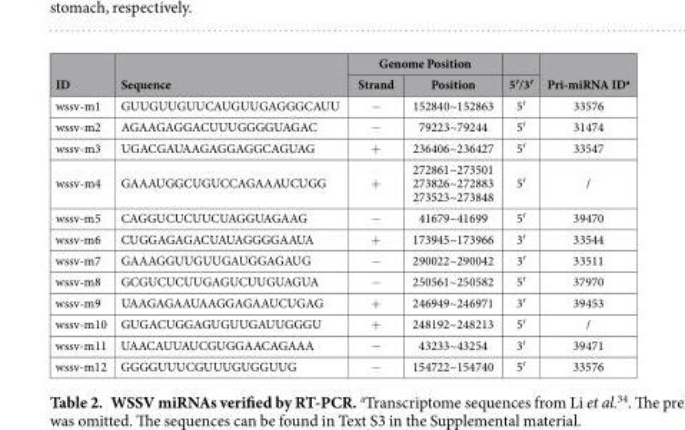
<table><thead><tr><td rowspan="2">ID</td><td rowspan="2">Sequence</td><td colspan="2">Genome Position</td><td rowspan="2">5′/3′</td><td rowspan="2">Pri-miRNA ID<sup>a</sup></td></tr><tr><td>Strand</td><td>Position</td></tr></thead><tbody><tr><td>wssv-m1</td><td>GUUGUUGUUCAUGUUGAGGGCAUU</td><td>−</td><td>152840~152863</td><td>5′</td><td>33576</td></tr><tr><td>wssv-m2</td><td>AGAAGAGGACUUUGGGGUAGAC</td><td>−</td><td>79223~79244</td><td>5′</td><td>31474</td></tr><tr><td>wssv-m3</td><td>UGACGAUAAGAGGAGGCAGUAG</td><td>+</td><td>236406~236427</td><td>5′</td><td>33547</td></tr><tr><td>wssv-m4</td><td>GAAAUGGCUGUCCAGAAAUCUGG</td><td>+</td><td>272861~273501 273826~272883 273523~273848</td><td>5′</td><td>/</td></tr><tr><td>wssv-m5</td><td>CAGGUCUCUUCUAGGUAGAAG</td><td>−</td><td>41679~41699</td><td>5′</td><td>39470</td></tr><tr><td>wssv-m6</td><td>CUGGAGAGACUAUAGGGGAAUA</td><td>+</td><td>173945~173966</td><td>3′</td><td>33544</td></tr><tr><td>wssv-m7</td><td>GAAAGGUUGUUGAUGGAGAUG</td><td>−</td><td>290022~290042</td><td>3′</td><td>33511</td></tr><tr><td>wssv-m8</td><td>GCGUCUCUUGAGUCUUGUAGUA</td><td>−</td><td>250561~250582</td><td>5′</td><td>37970</td></tr><tr><td>wssv-m9</td><td>UAAGAGAAUAAGGAGAAUCUGAG</td><td>+</td><td>246949~246971</td><td>3′</td><td>39453</td></tr><tr><td>wssv-m10</td><td>GUGACUGGAGUGUUGAUUGGGU</td><td>+</td><td>248192~248213</td><td>5′</td><td>/</td></tr><tr><td>wssv-m11</td><td>UAACAUUAUCGUGGAACAGAAA</td><td>−</td><td>43233~43254</td><td>3′</td><td>39471</td></tr><tr><td>wssv-m12</td><td>GGGGUUUCGUUUGUGGUUG</td><td>−</td><td>154722~154740</td><td>5′</td><td>33576</td></tr></tbody></table>